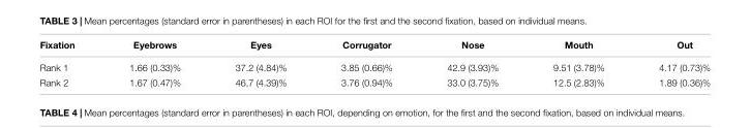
<table><thead><tr><td>Fixation</td><td>Eyebrows</td><td>Eyes</td><td>Corrugator</td><td>Nose</td><td>Mouth</td><td>Out</td></tr></thead><tbody><tr><td>Rank 1</td><td>1.66 (0.33)%</td><td>37.2 (4.84)%</td><td>3.85 (0.66)%</td><td>42.9 (3.93)%</td><td>9.51 (3.78)%</td><td>4.17 (0.73)%</td></tr><tr><td>Rank 2</td><td>1.67 (0.47)%</td><td>46,7 (4.39)%</td><td>3.76 (0.94)%</td><td>33.0 (3.75)%</td><td>12.5 (2.83)%</td><td>1.89 (0.36)%</td></tr></tbody></table>